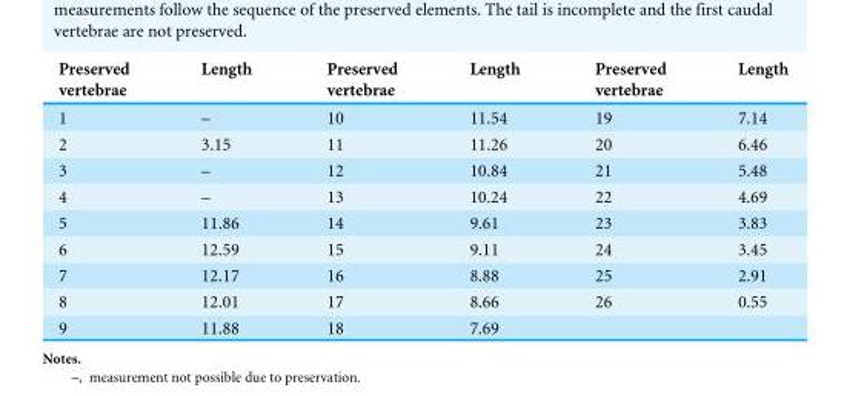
<table><thead><tr><td>Preserved vertebrae</td><td>Length</td><td>Preserved vertebrae</td><td>Length</td><td>Preserved vertebrae</td><td>Length</td></tr></thead><tbody><tr><td>1</td><td>–</td><td>10</td><td>11.54</td><td>19</td><td>7.14</td></tr><tr><td>2</td><td>3.15</td><td>11</td><td>11.26</td><td>20</td><td>6.46</td></tr><tr><td>3</td><td>–</td><td>12</td><td>10.84</td><td>21</td><td>5.48</td></tr><tr><td>4</td><td>–</td><td>13</td><td>10.24</td><td>22</td><td>4.69</td></tr><tr><td>5</td><td>11.86</td><td>14</td><td>9.61</td><td>23</td><td>3.83</td></tr><tr><td>6</td><td>12.59</td><td>15</td><td>9.11</td><td>24</td><td>3.45</td></tr><tr><td>7</td><td>12.17</td><td>16</td><td>8.88</td><td>25</td><td>2.91</td></tr><tr><td>8</td><td>12.01</td><td>17</td><td>8.66</td><td>26</td><td>0.55</td></tr><tr><td>9</td><td>11.88</td><td>18</td><td>7.69</td><td></td><td></td></tr></tbody></table>